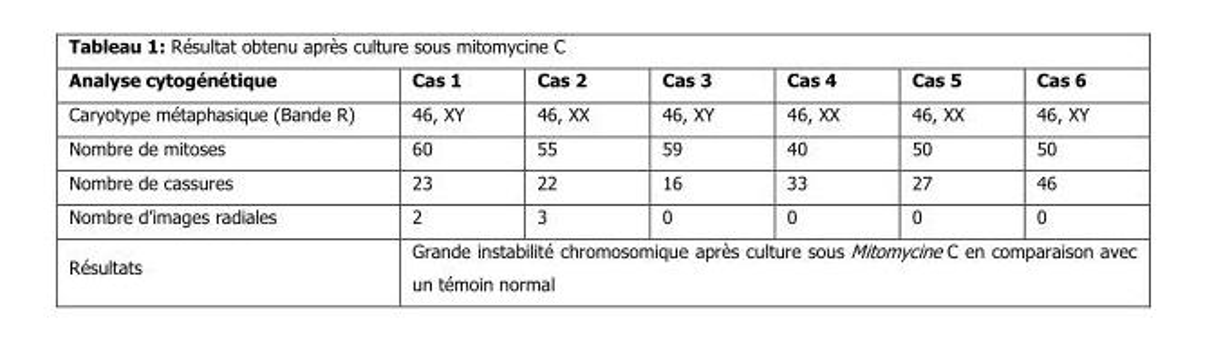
<table><thead><tr><td>Analyse cytogénétique</td><td>Cas 1</td><td>Cas 2</td><td>Cas 3</td><td>Cas 4</td><td>Cas 5</td><td>Cas 6</td></tr></thead><tbody><tr><td>Caryotype métaphasique (Bande R)</td><td>46, XY</td><td>46, XX</td><td>46, XY</td><td>46, XX</td><td>46, XX</td><td>46, XY</td></tr><tr><td>Nombre de mitoses</td><td>60</td><td>55</td><td>59</td><td>40</td><td>50</td><td>50</td></tr><tr><td>Nombre de cassures</td><td>23</td><td>22</td><td>16</td><td>33</td><td>27</td><td>46</td></tr><tr><td>Nombre d’images radiales</td><td>2</td><td>3</td><td>0</td><td>0</td><td>0</td><td>0</td></tr><tr><td>Résultats</td><td colspan="6">Grande instabilité chromosomique après culture sous Mitomycine C en comparaison avec un témoin normal</td></tr></tbody></table>